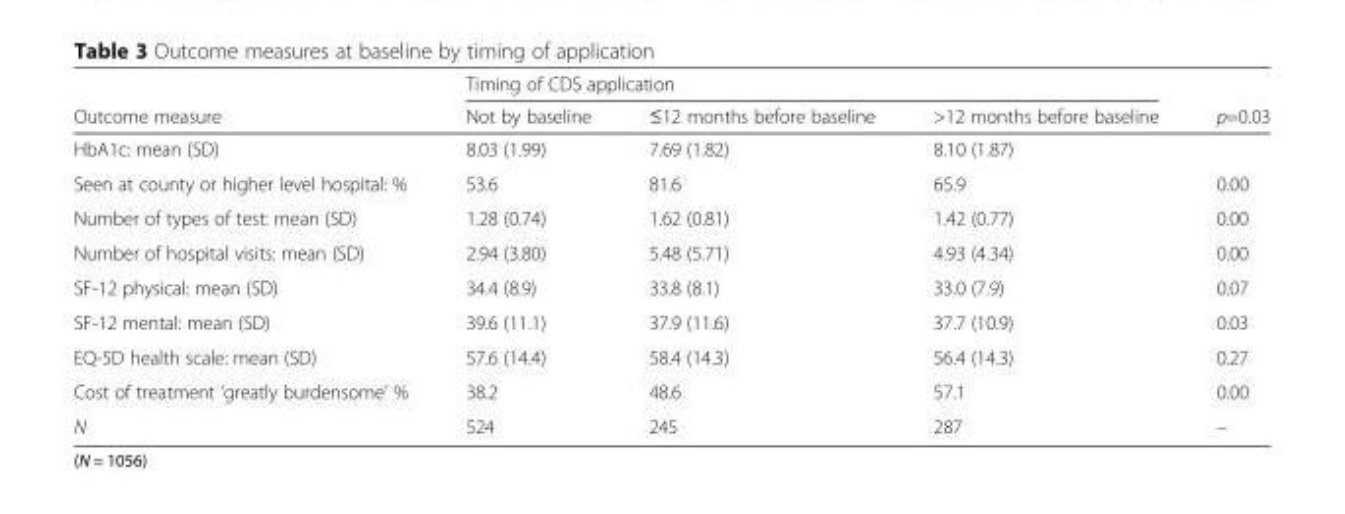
<table><thead><tr><td rowspan="2">Outcome measure</td><td colspan="3">Timing of CDS application</td><td rowspan="2">p=0.03</td></tr><tr><td>Not by baseline</td><td>≤12 months before baseline</td><td>&gt;12 months before baseline</td></tr></thead><tbody><tr><td>HbA1c: mean (SD)</td><td>8.03 (1.99)</td><td>7.69 (1.82)</td><td>8.10 (1.87)</td><td></td></tr><tr><td>Seen at county or higher level hospital: %</td><td>53.6</td><td>81.6</td><td>65.9</td><td>0.00</td></tr><tr><td>Number of types of test: mean (SD)</td><td>1.28 (0.74)</td><td>1.62 (0.81)</td><td>1.42 (0.77)</td><td>0.00</td></tr><tr><td>Number of hospital visits: mean (SD)</td><td>2.94 (3.80)</td><td>5.48 (5.71)</td><td>4.93 (4.34)</td><td>0.00</td></tr><tr><td>SF-12 physical: mean (SD)</td><td>34.4 (8.9)</td><td>33.8 (8.1)</td><td>33.0 (7.9)</td><td>0.07</td></tr><tr><td>SF-12 mental: mean (SD)</td><td>39.6 (11.1)</td><td>37.9 (11.6)</td><td>37.7 (10.9)</td><td>0.03</td></tr><tr><td>EQ-5D health scale: mean (SD)</td><td>57.6 (14.4)</td><td>58.4 (14.3)</td><td>56.4 (14.3)</td><td>0.27</td></tr><tr><td>Cost of treatment ‘greatly burdensome’ %</td><td>38.2</td><td>48.6</td><td>57.1</td><td>0.00</td></tr><tr><td>N</td><td>524</td><td>245</td><td>287</td><td>–</td></tr></tbody></table>